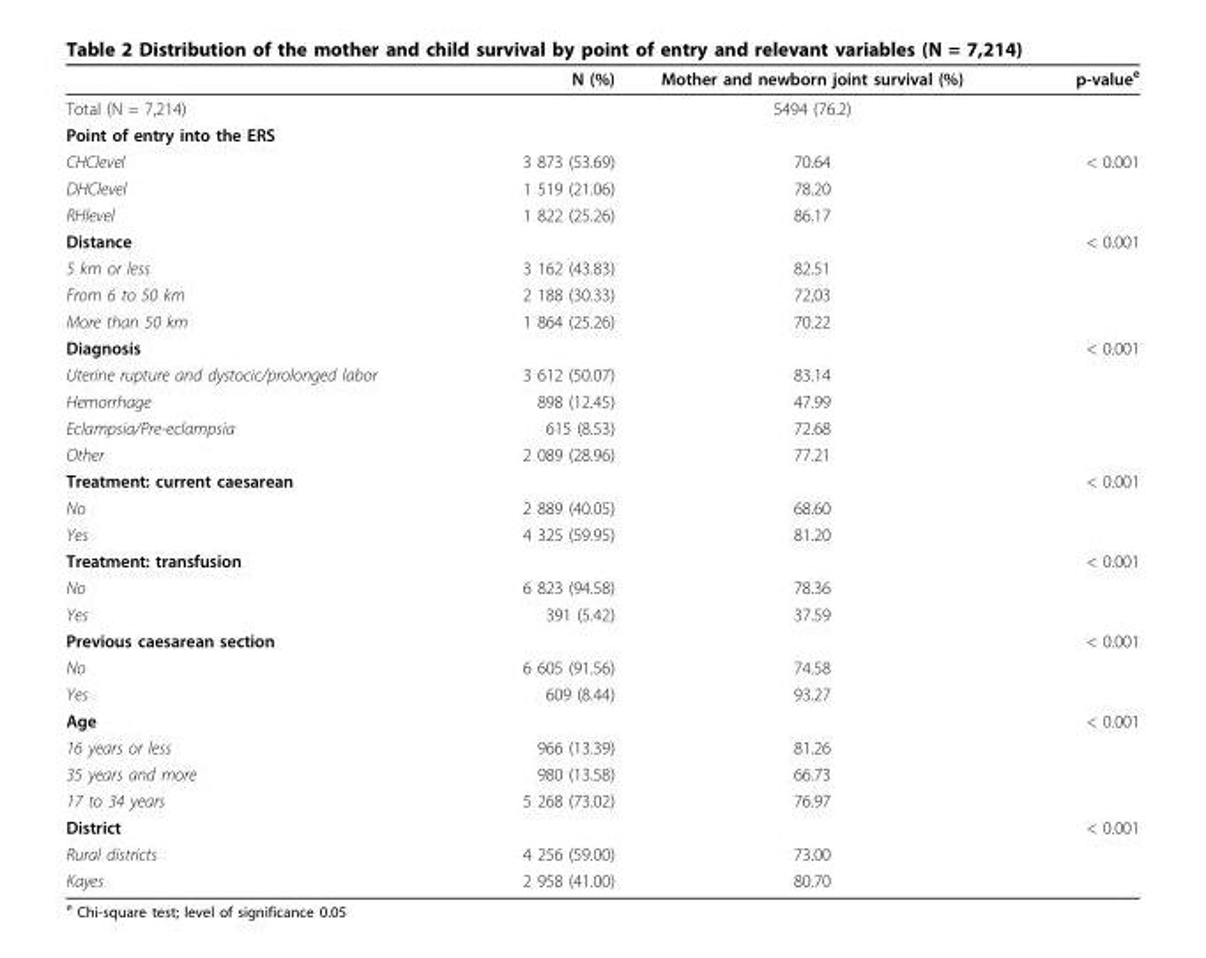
<table><thead><tr><td></td><td>N (%)</td><td>Mother and newborn joint survival (%)</td><td>p-value<sup>e</sup></td></tr></thead><tbody><tr><td>Total (N = 7,214)</td><td></td><td>5494 (76.2)</td><td></td></tr><tr><td colspan="4">Point of entry into the ERS</td></tr><tr><td>CHClevel</td><td>3 873 (53.69)</td><td>70.64</td><td>&lt; 0.001</td></tr><tr><td>DHClevel</td><td>1 519 (21.06)</td><td>78.20</td><td></td></tr><tr><td>RHlevel</td><td>1 822 (25.26)</td><td>86.17</td><td></td></tr><tr><td>Distance</td><td></td><td></td><td>&lt; 0.001</td></tr><tr><td>5 km or less</td><td>3 162 (43.83)</td><td>82.51</td><td></td></tr><tr><td>From 6 to 50 km</td><td>2 188 (30.33)</td><td>72,03</td><td></td></tr><tr><td>More than 50 km</td><td>1 864 (25.26)</td><td>70.22</td><td></td></tr><tr><td>Diagnosis</td><td></td><td></td><td>&lt; 0.001</td></tr><tr><td>Uterine rupture and dystocic/prolonged labor</td><td>3 612 (50.07)</td><td>83.14</td><td></td></tr><tr><td>Hemorrhage</td><td>898 (12.45)</td><td>47.99</td><td></td></tr><tr><td>Eclampsia/Pre-eclampsia</td><td>615 (8.53)</td><td>72.68</td><td></td></tr><tr><td>Other</td><td>2 089 (28.96)</td><td>77.21</td><td></td></tr><tr><td>Treatment: current caesarean</td><td></td><td></td><td>&lt; 0.001</td></tr><tr><td>No</td><td>2 889 (40.05)</td><td>68.60</td><td></td></tr><tr><td>Yes</td><td>4 325 (59.95)</td><td>81.20</td><td></td></tr><tr><td>Treatment: transfusion</td><td></td><td></td><td>&lt; 0.001</td></tr><tr><td>No</td><td>6 823 (94.58)</td><td>78.36</td><td></td></tr><tr><td>Yes</td><td>391 (5.42)</td><td>37.59</td><td></td></tr><tr><td>Previous caesarean section</td><td></td><td></td><td>&lt; 0.001</td></tr><tr><td>No</td><td>6 605 (91.56)</td><td>74.58</td><td></td></tr><tr><td>Yes</td><td>609 (8.44)</td><td>93.27</td><td></td></tr><tr><td>Age</td><td></td><td></td><td>&lt; 0.001</td></tr><tr><td>16 years or less</td><td>966 (13.39)</td><td>81.26</td><td></td></tr><tr><td>35 years and more</td><td>980 (13.58)</td><td>66.73</td><td></td></tr><tr><td>17 to 34 years</td><td>5 268 (73.02)</td><td>76.97</td><td></td></tr><tr><td>District</td><td></td><td></td><td>&lt; 0.001</td></tr><tr><td>Rural districts</td><td>4 256 (59.00)</td><td>73.00</td><td></td></tr><tr><td>Kayes</td><td>2 958 (41.00)</td><td>80.70</td><td></td></tr></tbody></table>